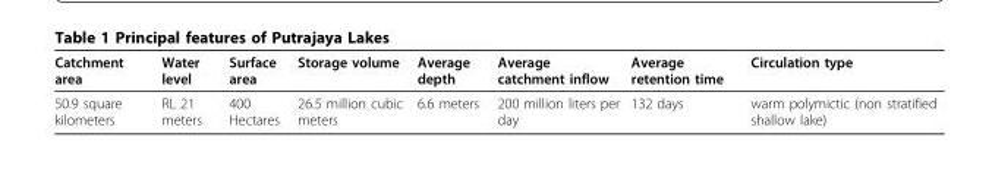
<table><thead><tr><td>Catchment area</td><td>Water level</td><td>Surface area</td><td>Storage volume</td><td>Average depth</td><td>Average catchment inflow</td><td>Average retention time</td><td>Circulation type</td></tr></thead><tbody><tr><td>50.9 square kilometers</td><td>RL 21 meters</td><td>400 Hectares</td><td>26.5 million cubic meters</td><td>6.6 meters</td><td>200 million liters per day</td><td>132 days</td><td>warm polymictic (non stratified shallow lake)</td></tr></tbody></table>